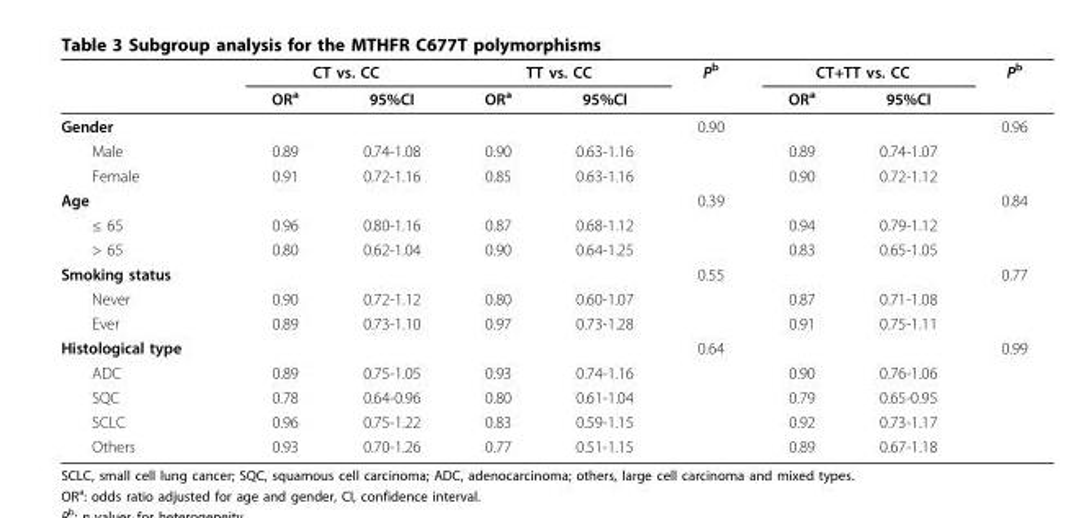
<table><thead><tr><td rowspan="2"></td><td colspan="2">CT vs. CC</td><td colspan="2">TT vs. CC</td><td rowspan="2">P<sup>b</sup></td><td colspan="2">CT+TT vs. CC</td><td rowspan="2">P<sup>b</sup></td></tr><tr><td>OR<sup>a</sup></td><td>95%CI</td><td>OR<sup>a</sup></td><td>95%CI</td><td>OR<sup>a</sup></td><td>95%CI</td></tr></thead><tbody><tr><td>Gender</td><td></td><td></td><td></td><td></td><td>0.90</td><td></td><td></td><td>0.96</td></tr><tr><td>Male</td><td>0.89</td><td>0.74-1.08</td><td>0.90</td><td>0.63-1.16</td><td></td><td>0.89</td><td>0.74-1.07</td><td></td></tr><tr><td>Female</td><td>0.91</td><td>0.72-1.16</td><td>0.85</td><td>0.63-1.16</td><td></td><td>0.90</td><td>0.72-1.12</td><td></td></tr><tr><td>Age</td><td></td><td></td><td></td><td></td><td>0.39</td><td></td><td></td><td>0.84</td></tr><tr><td>≤ 65</td><td>0.96</td><td>0.80-1.16</td><td>0.87</td><td>0.68-1.12</td><td></td><td>0.94</td><td>0.79-1.12</td><td></td></tr><tr><td>&gt; 65</td><td>0.80</td><td>0.62-1.04</td><td>0.90</td><td>0.64-1.25</td><td></td><td>0.83</td><td>0.65-1.05</td><td></td></tr><tr><td>Smoking status</td><td></td><td></td><td></td><td></td><td>0.55</td><td></td><td></td><td>0.77</td></tr><tr><td>Never</td><td>0.90</td><td>0.72-1.12</td><td>0.80</td><td>0.60-1.07</td><td></td><td>0.87</td><td>0.71-1.08</td><td></td></tr><tr><td>Ever</td><td>0.89</td><td>0.73-1.10</td><td>0.97</td><td>0.73-1.28</td><td></td><td>0.91</td><td>0.75-1.11</td><td></td></tr><tr><td>Histological type</td><td></td><td></td><td></td><td></td><td>0.64</td><td></td><td></td><td>0.99</td></tr><tr><td>ADC</td><td>0.89</td><td>0.75-1.05</td><td>0.93</td><td>0.74-1.16</td><td></td><td>0.90</td><td>0.76-1.06</td><td></td></tr><tr><td>SQC</td><td>0.78</td><td>0.64-0.96</td><td>0.80</td><td>0.61-1.04</td><td></td><td>0.79</td><td>0.65-0.95</td><td></td></tr><tr><td>SCLC</td><td>0.96</td><td>0.75-1.22</td><td>0.83</td><td>0.59-1.15</td><td></td><td>0.92</td><td>0.73-1.17</td><td></td></tr><tr><td>Others</td><td>0.93</td><td>0.70-1.26</td><td>0.77</td><td>0.51-1.15</td><td></td><td>0.89</td><td>0.67-1.18</td><td></td></tr></tbody></table>